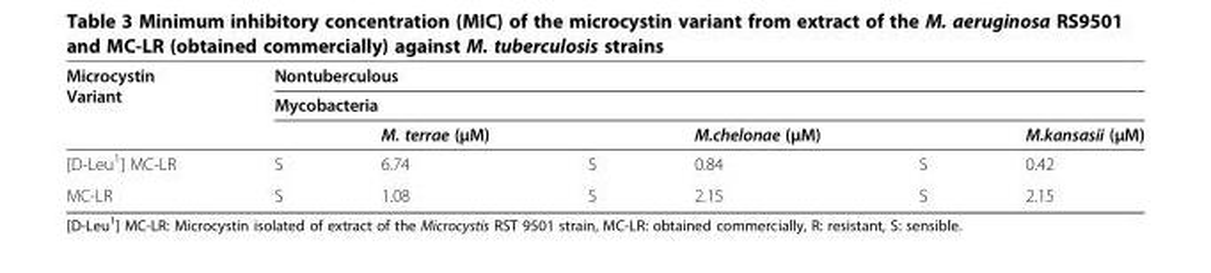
<table><thead><tr><td rowspan="3">Microcystin Variant</td><td rowspan="2" colspan="6">Nontuberculous Mycobacteria</td></tr><tr></tr><tr><td></td><td>M. terrae (μM)</td><td></td><td>M.chelonae (μM)</td><td></td><td>M.kansasii (μM)</td></tr></thead><tbody><tr><td>[D-Leu<sup>1</sup>] MC-LR</td><td>S</td><td>6.74</td><td>S</td><td>0.84</td><td>S</td><td>0.42</td></tr><tr><td>MC-LR</td><td>S</td><td>1.08</td><td>S</td><td>2.15</td><td>S</td><td>2.15</td></tr></tbody></table>